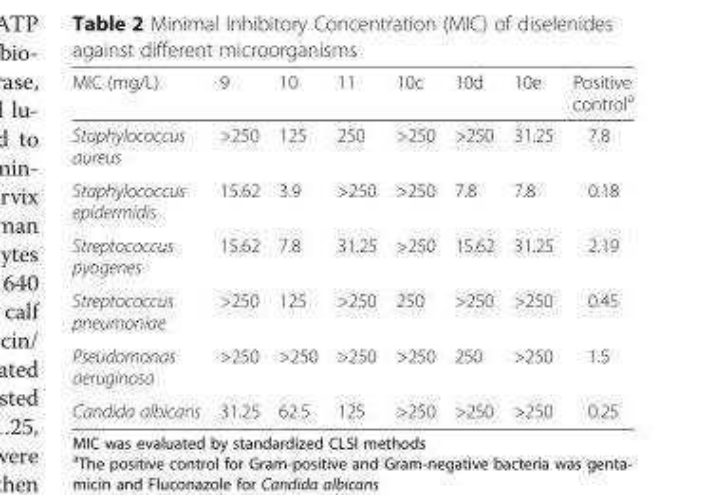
<table><thead><tr><td>MIC (mg/L)</td><td>9</td><td>10</td><td>11</td><td>10c</td><td>10d</td><td>10e</td><td>Positive control<sup>a</sup></td></tr></thead><tbody><tr><td>Staphylococcus aureus</td><td>&gt;250</td><td>125</td><td>250</td><td>&gt;250</td><td>&gt;250</td><td>31.25</td><td>7.8</td></tr><tr><td>Staphylococcus epidermidis</td><td>15.62</td><td>3.9</td><td>&gt;250</td><td>&gt;250</td><td>7.8</td><td>7.8</td><td>0.18</td></tr><tr><td>Streptococcus pyogenes</td><td>15.62</td><td>7.8</td><td>31.25</td><td>&gt;250</td><td>15.62</td><td>31.25</td><td>2.19</td></tr><tr><td>Streptococcus pneumoniae</td><td>&gt;250</td><td>125</td><td>&gt;250</td><td>250</td><td>&gt;250</td><td>&gt;250</td><td>0.45</td></tr><tr><td>Pseudomonas aeruginosa</td><td>&gt;250</td><td>&gt;250</td><td>&gt;250</td><td>&gt;250</td><td>250</td><td>&gt;250</td><td>1.5</td></tr><tr><td>Candida albicans</td><td>31.25</td><td>62.5</td><td>125</td><td>&gt;250</td><td>&gt;250</td><td>&gt;250</td><td>0.25</td></tr></tbody></table>